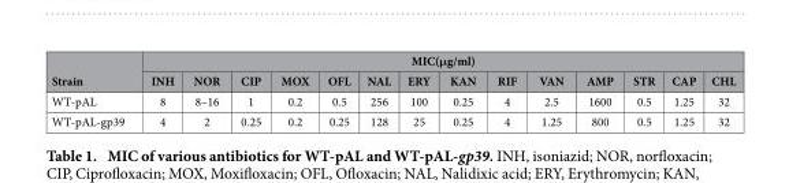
<table><thead><tr><td rowspan="2">Strain</td><td colspan="14">MIC(μg/ml)</td></tr><tr><td>INH</td><td>NOR</td><td>CIP</td><td>MOX</td><td>OFL</td><td>NAL</td><td>ERY</td><td>KAN</td><td>RIF</td><td>VAN</td><td>AMP</td><td>STR</td><td>CAP</td><td>CHL</td></tr></thead><tbody><tr><td>WT-pAL</td><td>8</td><td>8–16</td><td>1</td><td>0.2</td><td>0.5</td><td>256</td><td>100</td><td>0.25</td><td>4</td><td>2.5</td><td>1600</td><td>0.5</td><td>1.25</td><td>32</td></tr><tr><td>WT-pAL-gp39</td><td>4</td><td>2</td><td>0.25</td><td>0.2</td><td>0.25</td><td>128</td><td>25</td><td>0.25</td><td>4</td><td>1.25</td><td>800</td><td>0.5</td><td>1.25</td><td>32</td></tr></tbody></table>